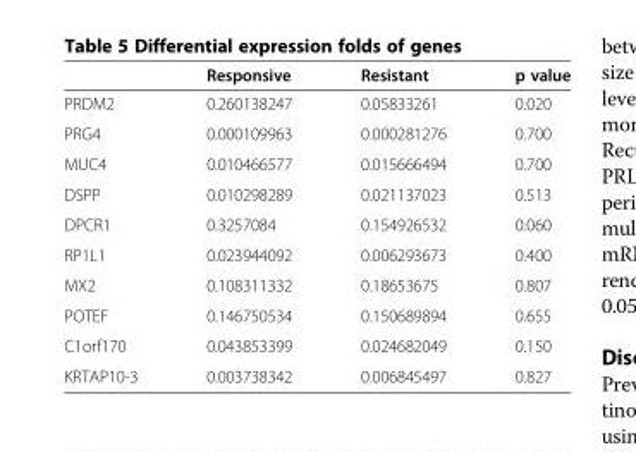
<table><thead><tr><td></td><td>Responsive</td><td>Resistant</td><td>p value</td></tr></thead><tbody><tr><td>PRDM2</td><td>0.260138247</td><td>0.05833261</td><td>0.020</td></tr><tr><td>PRG4</td><td>0.000109963</td><td>0.000281276</td><td>0.700</td></tr><tr><td>MUC4</td><td>0.010466577</td><td>0.015666494</td><td>0.700</td></tr><tr><td>DSPP</td><td>0.010298289</td><td>0.021137023</td><td>0.513</td></tr><tr><td>DPCR1</td><td>0.3257084</td><td>0.154926532</td><td>0.060</td></tr><tr><td>RP1L1</td><td>0.023944092</td><td>0.006293673</td><td>0.400</td></tr><tr><td>MX2</td><td>0.108311332</td><td>0.18653675</td><td>0.807</td></tr><tr><td>POTEF</td><td>0.146750534</td><td>0.150689894</td><td>0.655</td></tr><tr><td>C1orf170</td><td>0.043853399</td><td>0.024682049</td><td>0.150</td></tr><tr><td>KRTAP10-3</td><td>0.003738342</td><td>0.006845497</td><td>0.827</td></tr></tbody></table>